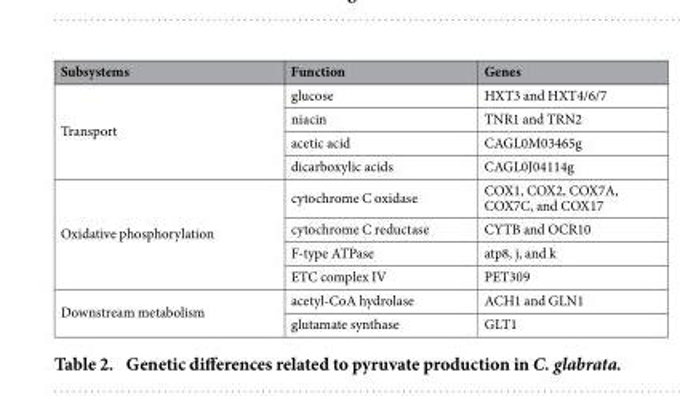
<table><thead><tr><td>Subsystems</td><td>Function</td><td>Genes</td></tr></thead><tbody><tr><td rowspan="4">Transport</td><td>glucose</td><td>HXT3 and HXT4/6/7</td></tr><tr><td>niacin</td><td>TNR1 and TRN2</td></tr><tr><td>acetic acid</td><td>CAGL0M03465g</td></tr><tr><td>dicarboxylic acids</td><td>CAGL0J04114g</td></tr><tr><td rowspan="4">Oxidative phosphorylation</td><td>cytochrome C oxidase</td><td>COX1, COX2, COX7A, COX7C, and COX17</td></tr><tr><td>cytochrome C reductase</td><td>CYTB and OCR10</td></tr><tr><td>F-type ATPase</td><td>atp8, j, and k</td></tr><tr><td>ETC complex IV</td><td>PET309</td></tr><tr><td rowspan="2">Downstream metabolism</td><td>acetyl-CoA hydrolase</td><td>ACH1 and GLN1</td></tr><tr><td>glutamate synthase</td><td>GLT1</td></tr></tbody></table>